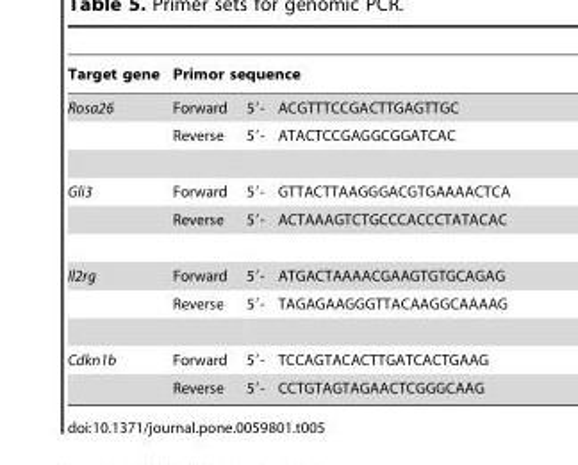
<table><thead><tr><td rowspan="2">Target gene Rosa26</td><td colspan="3">Primor sequence</td></tr><tr><td>Forward</td><td>5′-</td><td>ACGTTTCCGACTTGAGTTGC</td></tr></thead><tbody><tr><td></td><td>Reverse</td><td>5′-</td><td>ATACTCCGAGGCGGATCAC</td></tr><tr><td rowspan="2">Gli3</td><td>Forward</td><td>5′-</td><td>GTTACTTAAGGGACGTGAAAACTCA</td></tr><tr><td>Reverse</td><td>5′-</td><td>ACTAAAGTCTGCCCACCCTATACAC</td></tr><tr><td rowspan="2">Il2rg</td><td>Forward</td><td>5′-</td><td>ATGACTAAAACGAAGTGTGCAGAG</td></tr><tr><td>Reverse</td><td>5′-</td><td>TAGAGAAGGGTTACAAGGCAAAAG</td></tr><tr><td rowspan="2">Cdkn1b</td><td>Forward</td><td>5′-</td><td>TCCAGTACACTTGATCACTGAAG</td></tr><tr><td>Reverse</td><td>5′-</td><td>CCTGTAGTAGAACTCGGGCAAG</td></tr></tbody></table>